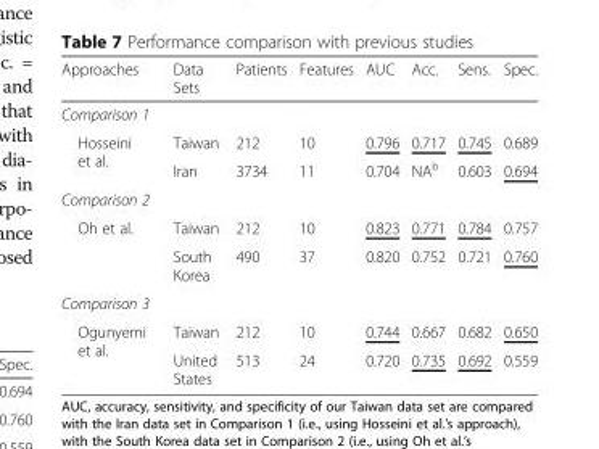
<table><thead><tr><td>Approaches</td><td>Data Sets</td><td>Patients</td><td>Features</td><td>AUC</td><td>Acc.</td><td>Sens.</td><td>Spec.</td></tr></thead><tbody><tr><td colspan="8">Comparison 1</td></tr><tr><td rowspan="2">Hosseini et al.</td><td>Taiwan</td><td>212</td><td>10</td><td>0.796</td><td>0.717</td><td>0.745</td><td>0.689</td></tr><tr><td>Iran</td><td>3734</td><td>11</td><td>0.704</td><td>NA<sup>b</sup></td><td>0.603</td><td>0.694</td></tr><tr><td colspan="8">Comparison 2</td></tr><tr><td rowspan="2">Oh et al.</td><td>Taiwan</td><td>212</td><td>10</td><td>0.823</td><td>0.771</td><td>0.784</td><td>0.757</td></tr><tr><td>South Korea</td><td>490</td><td>37</td><td>0.820</td><td>0.752</td><td>0.721</td><td>0.760</td></tr><tr><td colspan="8">Comparison 3</td></tr><tr><td rowspan="2">Ogunyemi et al.</td><td>Taiwan</td><td>212</td><td>10</td><td>0.744</td><td>0.667</td><td>0.682</td><td>0.650</td></tr><tr><td>United States</td><td>513</td><td>24</td><td>0.720</td><td>0.735</td><td>0.692</td><td>0.559</td></tr></tbody></table>